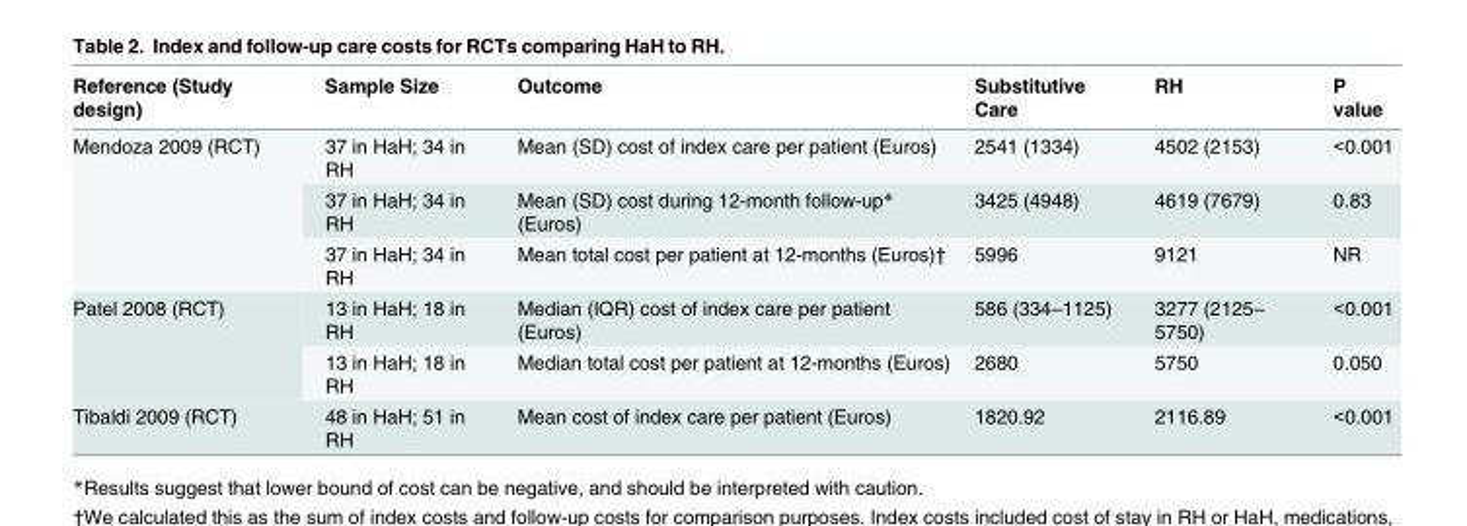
<table><thead><tr><td>Reference (Study design)</td><td>Sample Size</td><td>Outcome</td><td>Substitutive Care</td><td>RH</td><td>P value</td></tr></thead><tbody><tr><td rowspan="3">Mendoza 2009 (RCT)</td><td>37 in HaH; 34 in RH</td><td>Mean (SD) cost of index care per patient (Euros)</td><td>2541 (1334)</td><td>4502 (2153)</td><td>&lt;0.001</td></tr><tr><td>37 in HaH; 34 in RH</td><td>Mean (SD) cost during 12-month follow-up* (Euros)</td><td>3425 (4948)</td><td>4619 (7679)</td><td>0.83</td></tr><tr><td>37 in HaH; 34 in RH</td><td>Mean total cost per patient at 12-months (Euros)†</td><td>5996</td><td>9121</td><td>NR</td></tr><tr><td rowspan="2">Patel 2008 (RCT)</td><td>13 in HaH; 18 in RH</td><td>Median (IQR) cost of index care per patient (Euros)</td><td>586 (334–1125)</td><td>3277 (2125– 5750)</td><td>&lt;0.001</td></tr><tr><td>13 in HaH; 18 in RH</td><td>Median total cost per patient at 12-months (Euros)</td><td>2680</td><td>5750</td><td>0.050</td></tr><tr><td>Tibaldi 2009 (RCT)</td><td>48 in HaH; 51 in RH</td><td>Mean cost of index care per patient (Euros)</td><td>1820.92</td><td>2116.89</td><td>&lt;0.001</td></tr></tbody></table>